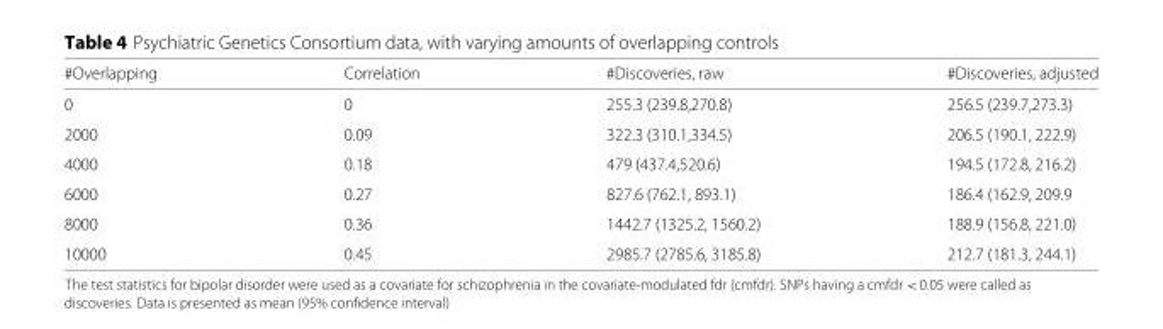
<table><thead><tr><td>#Overlapping</td><td>Correlation</td><td>#Discoveries, raw</td><td>#Discoveries, adjusted</td></tr></thead><tbody><tr><td>0</td><td>0</td><td>255.3 (239.8,270.8)</td><td>256.5 (239.7,273.3)</td></tr><tr><td>2000</td><td>0.09</td><td>322.3 (310.1,334.5)</td><td>206.5 (190.1, 222.9)</td></tr><tr><td>4000</td><td>0.18</td><td>479 (437.4,520.6)</td><td>194.5 (172.8, 216.2)</td></tr><tr><td>6000</td><td>0.27</td><td>827.6 (762.1, 893.1)</td><td>186.4 (162.9, 209.9</td></tr><tr><td>8000</td><td>0.36</td><td>1442.7 (1325.2, 1560.2)</td><td>188.9 (156.8, 221.0)</td></tr><tr><td>10000</td><td>0.45</td><td>2985.7 (2785.6, 3185.8)</td><td>212.7 (181.3, 244.1)</td></tr></tbody></table>